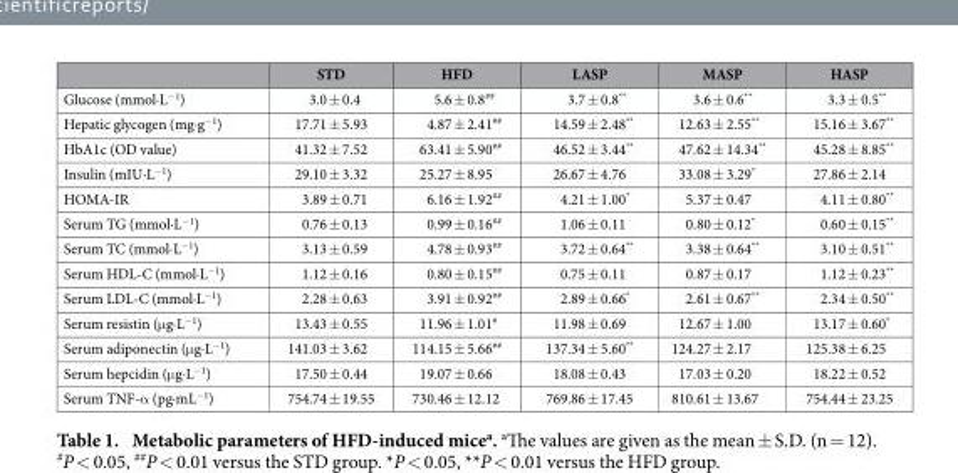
<table><thead><tr><td></td><td>STD</td><td>HFD</td><td>LASP</td><td>MASP</td><td>HASP</td></tr></thead><tbody><tr><td>Glucose (mmol·L<sup>−1</sup>)</td><td>3.0 ± 0.4</td><td>5.6 ± 0.8<sup>##</sup></td><td>3.7 ± 0.8**</td><td>3.6 ± 0.6**</td><td>3.3 ± 0.5**</td></tr><tr><td>Hepatic glycogen (mg·g<sup>−1</sup>)</td><td>17.71 ± 5.93</td><td>4.87 ± 2.41<sup>##</sup></td><td>14.59 ± 2.48**</td><td>12.63 ± 2.55**</td><td>15.16 ± 3.67**</td></tr><tr><td>HbA1c (OD value)</td><td>41.32 ± 7.52</td><td>63.41 ± 5.90<sup>##</sup></td><td>46.52 ± 3.44**</td><td>47.62 ± 14.34**</td><td>45.28 ± 8.85**</td></tr><tr><td>Insulin (mIU·L<sup>−1</sup>)</td><td>29.10 ± 3.32</td><td>25.27 ± 8.95</td><td>26.67 ± 4.76</td><td>33.08 ± 3.29*</td><td>27.86 ± 2.14</td></tr><tr><td>HOMA-IR</td><td>3.89 ± 0.71</td><td>6.16 ± 1.92<sup>##</sup></td><td>4.21 ± 1.00*</td><td>5.37 ± 0.47</td><td>4.11 ± 0.80**</td></tr><tr><td>Serum TG (mmol·L<sup>−1</sup>)</td><td>0.76 ± 0.13</td><td>0.99 ± 0.16<sup>##</sup></td><td>1.06 ± 0.11</td><td>0.80 ± 0.12*</td><td>0.60 ± 0.15**</td></tr><tr><td>Serum TC (mmol·L<sup>−1</sup>)</td><td>3.13 ± 0.59</td><td>4.78 ± 0.93<sup>##</sup></td><td>3.72 ± 0.64**</td><td>3.38 ± 0.64**</td><td>3.10 ± 0.51**</td></tr><tr><td>Serum HDL-C (mmol·L<sup>−1</sup>)</td><td>1.12 ± 0.16</td><td>0.80 ± 0.15<sup>##</sup></td><td>0.75 ± 0.11</td><td>0.87 ± 0.17</td><td>1.12 ± 0.23**</td></tr><tr><td>Serum LDL-C (mmol·L<sup>−1</sup>)</td><td>2.28 ± 0.63</td><td>3.91 ± 0.92<sup>##</sup></td><td>2.89 ± 0.66*</td><td>2.61 ± 0.67**</td><td>2.34 ± 0.50**</td></tr><tr><td>Serum resistin (μ g·L<sup>−1</sup>)</td><td>13.43 ± 0.55</td><td>11.96 ± 1.01<sup>#</sup></td><td>11.98 ± 0.69</td><td>12.67 ± 1.00</td><td>13.17 ± 0.60*</td></tr><tr><td>Serum adiponectin (μ g·L<sup>−1</sup>)</td><td>141.03 ± 3.62</td><td>114.15 ± 5.66<sup>##</sup></td><td>137.34 ± 5.60**</td><td>124.27 ± 2.17</td><td>125.38 ± 6.25</td></tr><tr><td>Serum hepcidin (μ g·L<sup>−1</sup>)</td><td>17.50 ± 0.44</td><td>19.07 ± 0.66</td><td>18.08 ± 0.43</td><td>17.03 ± 0.20</td><td>18.22 ± 0.52</td></tr><tr><td>Serum TNF-α (pg·mL<sup>−1</sup>)</td><td>754.74 ± 19.55</td><td>730.46 ± 12.12</td><td>769.86 ± 17.45</td><td>810.61 ± 13.67</td><td>754.44 ± 23.25</td></tr></tbody></table>